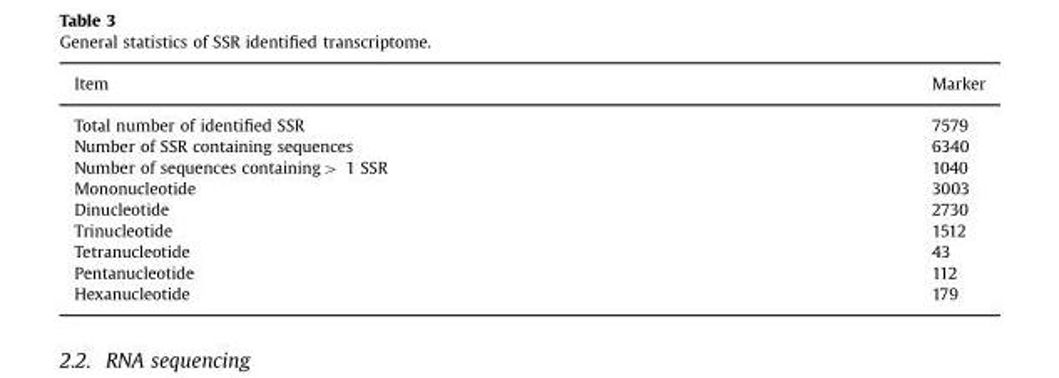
<table><thead><tr><td>Item</td><td>Marker</td></tr></thead><tbody><tr><td>Total number of identified SSR</td><td>7579</td></tr><tr><td>Number of SSR containing sequences</td><td>6340</td></tr><tr><td>Number of sequences containing&gt; 1 SSR</td><td>1040</td></tr><tr><td>Mononucleotide</td><td>3003</td></tr><tr><td>Dinucleotide</td><td>2730</td></tr><tr><td>Trinucleotide</td><td>1512</td></tr><tr><td>Tetranucleotide</td><td>43</td></tr><tr><td>Pentanucleotide</td><td>112</td></tr><tr><td>Hexanucleotide</td><td>179</td></tr></tbody></table>